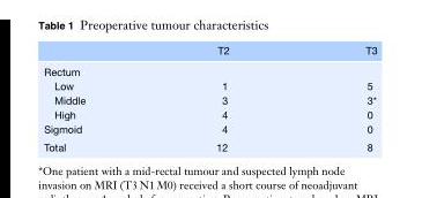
<table><thead><tr><td></td><td>T2</td><td>T3</td></tr></thead><tbody><tr><td colspan="3">Rectum</td></tr><tr><td>Low</td><td>1</td><td>5</td></tr><tr><td>Middle</td><td>3</td><td>3*</td></tr><tr><td>High</td><td>4</td><td>0</td></tr><tr><td>Sigmoid</td><td>4</td><td>0</td></tr><tr><td>Total</td><td>12</td><td>8</td></tr></tbody></table>